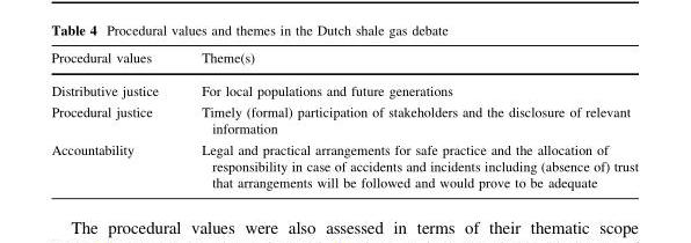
<table><thead><tr><td>Procedural values</td><td>Theme(s)</td></tr></thead><tbody><tr><td>Distributive justice</td><td>For local populations and future generations</td></tr><tr><td>Procedural justice</td><td>Timely (formal) participation of stakeholders and the disclosure of relevant information</td></tr><tr><td>Accountability</td><td>Legal and practical arrangements for safe practice and the allocation of responsibility in case of accidents and incidents including (absence of) trust that arrangements will be followed and would prove to be adequate</td></tr></tbody></table>